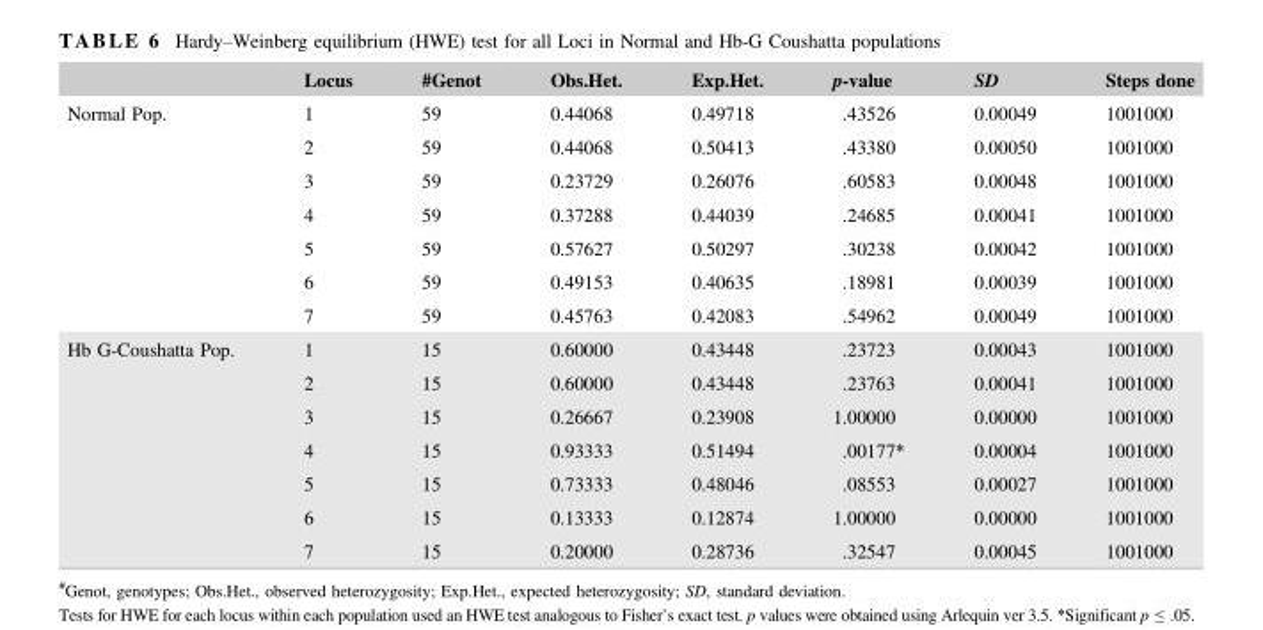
<table><thead><tr><td></td><td>Locus</td><td>#Genot</td><td>Obs.Het.</td><td>Exp.Het.</td><td>p-value</td><td>SD</td><td>Steps done</td></tr></thead><tbody><tr><td rowspan="7">Normal Pop.</td><td>1</td><td>59</td><td>0.44068</td><td>0.49718</td><td>.43526</td><td>0.00049</td><td>1001000</td></tr><tr><td>2</td><td>59</td><td>0.44068</td><td>0.50413</td><td>.43380</td><td>0.00050</td><td>1001000</td></tr><tr><td>3</td><td>59</td><td>0.23729</td><td>0.26076</td><td>.60583</td><td>0.00048</td><td>1001000</td></tr><tr><td>4</td><td>59</td><td>0.37288</td><td>0.44039</td><td>.24685</td><td>0.00041</td><td>1001000</td></tr><tr><td>5</td><td>59</td><td>0.57627</td><td>0.50297</td><td>.30238</td><td>0.00042</td><td>1001000</td></tr><tr><td>6</td><td>59</td><td>0.49153</td><td>0.40635</td><td>.18981</td><td>0.00039</td><td>1001000</td></tr><tr><td>7</td><td>59</td><td>0.45763</td><td>0.42083</td><td>.54962</td><td>0.00049</td><td>1001000</td></tr><tr><td rowspan="7">Hb G-Coushatta Pop.</td><td>1</td><td>15</td><td>0.60000</td><td>0.43448</td><td>.23723</td><td>0.00043</td><td>1001000</td></tr><tr><td>2</td><td>15</td><td>0.60000</td><td>0.43448</td><td>.23763</td><td>0.00041</td><td>1001000</td></tr><tr><td>3</td><td>15</td><td>0.26667</td><td>0.23908</td><td>1.00000</td><td>0.00000</td><td>1001000</td></tr><tr><td>4</td><td>15</td><td>0.93333</td><td>0.51494</td><td>.00177*</td><td>0.00004</td><td>1001000</td></tr><tr><td>5</td><td>15</td><td>0.73333</td><td>0.48046</td><td>.08553</td><td>0.00027</td><td>1001000</td></tr><tr><td>6</td><td>15</td><td>0.13333</td><td>0.12874</td><td>1.00000</td><td>0.00000</td><td>1001000</td></tr><tr><td>7</td><td>15</td><td>0.20000</td><td>0.28736</td><td>.32547</td><td>0.00045</td><td>1001000</td></tr></tbody></table>